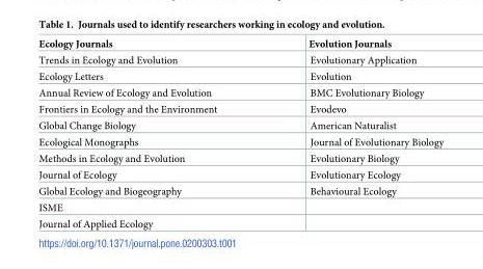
<table><thead><tr><td>Ecology Journals</td><td>Evolution Journals</td></tr></thead><tbody><tr><td>Trends in Ecology and Evolution</td><td>Evolutionary Application</td></tr><tr><td>Ecology Letters</td><td>Evolution</td></tr><tr><td>Annual Review of Ecology and Evolution</td><td>BMC Evolutionary Biology</td></tr><tr><td>Frontiers in Ecology and the Environment</td><td>Evodevo</td></tr><tr><td>Global Change Biology</td><td>American Naturalist</td></tr><tr><td>Ecological Monographs</td><td>Journal of Evolutionary Biology</td></tr><tr><td>Methods in Ecology and Evolution</td><td>Evolutionary Biology</td></tr><tr><td>Journal of Ecology</td><td>Evolutionary Ecology</td></tr><tr><td>Global Ecology and Biogeography</td><td>Behavioural Ecology</td></tr><tr><td colspan="2">ISME</td></tr><tr><td>Journal of Applied Ecology</td><td></td></tr></tbody></table>